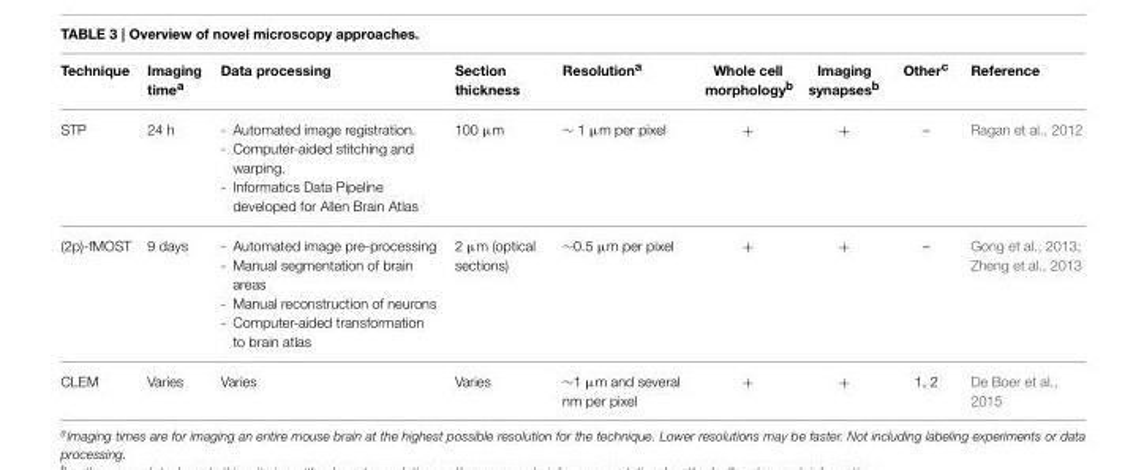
<table><thead><tr><td>Technique</td><td>Imaging time<sup>a</sup></td><td>Data processing</td><td>Section thickness</td><td>Resolution<sup>a</sup></td><td>Whole cell morphology<sup>b</sup></td><td>Imaging synapses<sup>b</sup></td><td>Other<sup>c</sup></td><td>Reference</td></tr></thead><tbody><tr><td>STP</td><td>24 h</td><td>- Automated image registration. - Computer-aided stitching and warping. - Informatics Data Pipeline developed for Allen Brain Atlas</td><td>100 µm</td><td>∼ 1 µm per pixel</td><td>+</td><td>+</td><td>–</td><td>Ragan et al., 2012</td></tr><tr><td>(2p)-fMOST</td><td>9 days</td><td>- Automated image pre-processing - Manual segmentation of brain areas - Manual reconstruction of neurons - Computer-aided transformation to brain atlas</td><td>2 µm (optical sections)</td><td>∼0.5 µm per pixel</td><td>+</td><td>+</td><td>–</td><td>Gong et al., 2013; Zheng et al., 2013</td></tr><tr><td>CLEM</td><td>Varies</td><td>Varies</td><td>Varies</td><td>∼1 µm and several nm per pixel</td><td>+</td><td>+</td><td>1, 2</td><td>De Boer et al., 2015</td></tr></tbody></table>